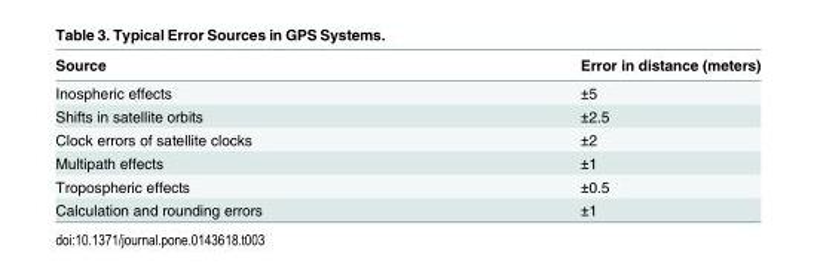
<table><thead><tr><td>Source</td><td>Error in distance (meters)</td></tr></thead><tbody><tr><td>Inospheric effects</td><td>±5</td></tr><tr><td>Shifts in satellite orbits</td><td>±2.5</td></tr><tr><td>Clock errors of satellite clocks</td><td>±2</td></tr><tr><td>Multipath effects</td><td>±1</td></tr><tr><td>Tropospheric effects</td><td>±0.5</td></tr><tr><td>Calculation and rounding errors</td><td>±1</td></tr></tbody></table>